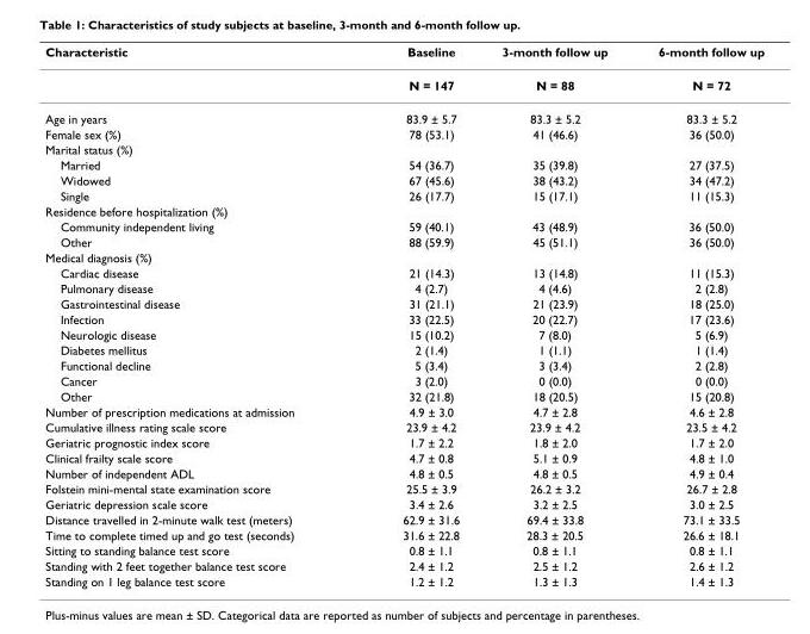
<table><thead><tr><td>Characteristic</td><td>Baseline</td><td>3-month follow up</td><td>6-month follow up</td></tr></thead><tbody><tr><td></td><td>N = 147</td><td>N = 88</td><td>N = 72</td></tr><tr><td>Age in years</td><td>83.9 ± 5.7</td><td>83.3 ± 5.2</td><td>83.3 ± 5.2</td></tr><tr><td>Female sex (%)</td><td>78 (53.1)</td><td>41 (46.6)</td><td>36 (50.0)</td></tr><tr><td colspan="4">Marital status (%)</td></tr><tr><td>Married</td><td>54 (36.7)</td><td>35 (39.8)</td><td>27 (37.5)</td></tr><tr><td>Widowed</td><td>67 (45.6)</td><td>38 (43.2)</td><td>34 (47.2)</td></tr><tr><td>Single</td><td>26 (17.7)</td><td>15 (17.1)</td><td>11 (15.3)</td></tr><tr><td colspan="4">Residence before hospitalization (%)</td></tr><tr><td>Community independent living</td><td>59 (40.1)</td><td>43 (48.9)</td><td>36 (50.0)</td></tr><tr><td>Other</td><td>88 (59.9)</td><td>45 (51.1)</td><td>36 (50.0)</td></tr><tr><td colspan="4">Medical diagnosis (%)</td></tr><tr><td>Cardiac disease</td><td>21 (14.3)</td><td>13 (14.8)</td><td>11 (15.3)</td></tr><tr><td>Pulmonary disease</td><td>4 (2.7)</td><td>4 (4.6)</td><td>2 (2.8)</td></tr><tr><td>Gastrointestinal disease</td><td>31 (21.1)</td><td>21 (23.9)</td><td>18 (25.0)</td></tr><tr><td>Infection</td><td>33 (22.5)</td><td>20 (22.7)</td><td>17 (23.6)</td></tr><tr><td>Neurologic disease</td><td>15 (10.2)</td><td>7 (8.0)</td><td>5 (6.9)</td></tr><tr><td>Diabetes mellitus</td><td>2 (1.4)</td><td>1 (1.1)</td><td>1 (1.4)</td></tr><tr><td>Functional decline</td><td>5 (3.4)</td><td>3 (3.4)</td><td>2 (2.8)</td></tr><tr><td>Cancer</td><td>3 (2.0)</td><td>0 (0.0)</td><td>0 (0.0)</td></tr><tr><td>Other</td><td>32 (21.8)</td><td>18 (20.5)</td><td>15 (20.8)</td></tr><tr><td>Number of prescription medications at admission</td><td>4.9 ± 3.0</td><td>4.7 ± 2.8</td><td>4.6 ± 2.8</td></tr><tr><td>Cumulative illness rating scale score</td><td>23.9 ± 4.2</td><td>23.9 ± 4.2</td><td>23.5 ± 4.2</td></tr><tr><td>Geriatric prognostic index score</td><td>1.7 ± 2.2</td><td>1.8 ± 2.0</td><td>1.7 ± 2.0</td></tr><tr><td>Clinical frailty scale score</td><td>4.7 ± 0.8</td><td>5.1 ± 0.9</td><td>4.8 ± 1.0</td></tr><tr><td>Number of independent ADL</td><td>4.8 ± 0.5</td><td>4.8 ± 0.5</td><td>4.9 ± 0.4</td></tr><tr><td>Folstein mini-mental state examination score</td><td>25.5 ± 3.9</td><td>26.2 ± 3.2</td><td>26.7 ± 2.8</td></tr><tr><td>Geriatric depression scale score</td><td>3.4 ± 2.6</td><td>3.2 ± 2.5</td><td>3.0 ± 2.5</td></tr><tr><td>Distance travelled in 2-minute walk test (meters)</td><td>62.9 ± 31.6</td><td>69.4 ± 33.8</td><td>73.1 ± 33.5</td></tr><tr><td>Time to complete timed up and go test (seconds)</td><td>31.6 ± 22.8</td><td>28.3 ± 20.5</td><td>26.6 ± 18.1</td></tr><tr><td>Sitting to standing balance test score</td><td>0.8 ± 1.1</td><td>0.8 ± 1.1</td><td>0.8 ± 1.1</td></tr><tr><td>Standing with 2 feet together balance test score</td><td>2.4 ± 1.2</td><td>2.5 ± 1.2</td><td>2.6 ± 1.2</td></tr><tr><td>Standing on 1 leg balance test score</td><td>1.2 ± 1.2</td><td>1.3 ± 1.3</td><td>1.4 ± 1.3</td></tr></tbody></table>